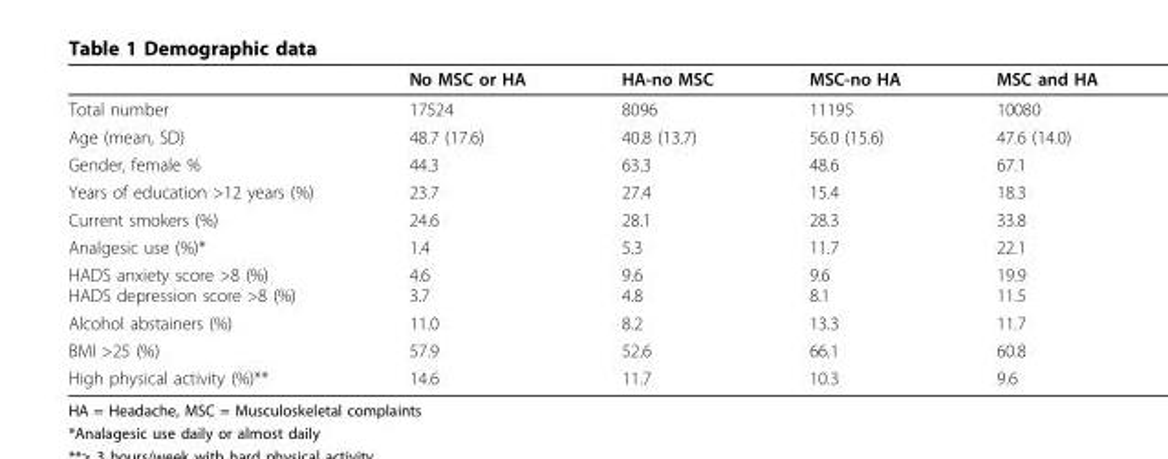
<table><thead><tr><td></td><td>No MSC or HA</td><td>HA-no MSC</td><td>MSC-no HA</td><td>MSC and HA</td></tr></thead><tbody><tr><td>Total number</td><td>17524</td><td>8096</td><td>11195</td><td>10080</td></tr><tr><td>Age (mean, SD)</td><td>48.7 (17.6)</td><td>40.8 (13.7)</td><td>56.0 (15.6)</td><td>47.6 (14.0)</td></tr><tr><td>Gender, female %</td><td>44.3</td><td>63.3</td><td>48.6</td><td>67.1</td></tr><tr><td>Years of education &gt;12 years (%)</td><td>23.7</td><td>27.4</td><td>15.4</td><td>18.3</td></tr><tr><td>Current smokers (%)</td><td>24.6</td><td>28.1</td><td>28.3</td><td>33.8</td></tr><tr><td>Analgesic use (%)*</td><td>1.4</td><td>5.3</td><td>11.7</td><td>22.1</td></tr><tr><td>HADS anxiety score &gt;8 (%) HADS depression score &gt;8 (%)</td><td>4.6 3.7</td><td>9.6 4.8</td><td>9.6 8.1</td><td>19.9 11.5</td></tr><tr><td>Alcohol abstainers (%)</td><td>11.0</td><td>8.2</td><td>13.3</td><td>11.7</td></tr><tr><td>BMI &gt;25 (%)</td><td>57.9</td><td>52.6</td><td>66.1</td><td>60.8</td></tr><tr><td>High physical activity (%)**</td><td>14.6</td><td>11.7</td><td>10.3</td><td>9.6</td></tr></tbody></table>